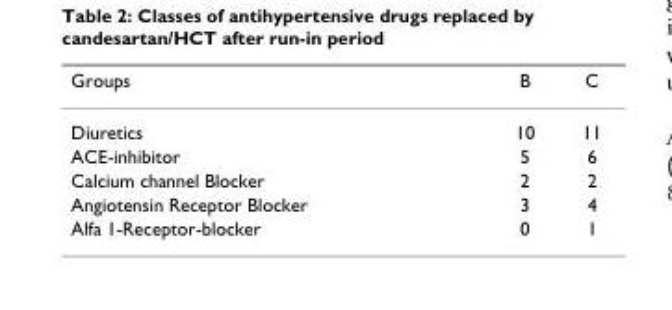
<table><thead><tr><td>Groups</td><td>B</td><td>C</td></tr></thead><tbody><tr><td>Diuretics</td><td>10</td><td>11</td></tr><tr><td>ACE-inhibitor</td><td>5</td><td>6</td></tr><tr><td>Calcium channel Blocker</td><td>2</td><td>2</td></tr><tr><td>Angiotensin Receptor Blocker</td><td>3</td><td>4</td></tr><tr><td>Alfa 1-Receptor-blocker</td><td>0</td><td>1</td></tr></tbody></table>